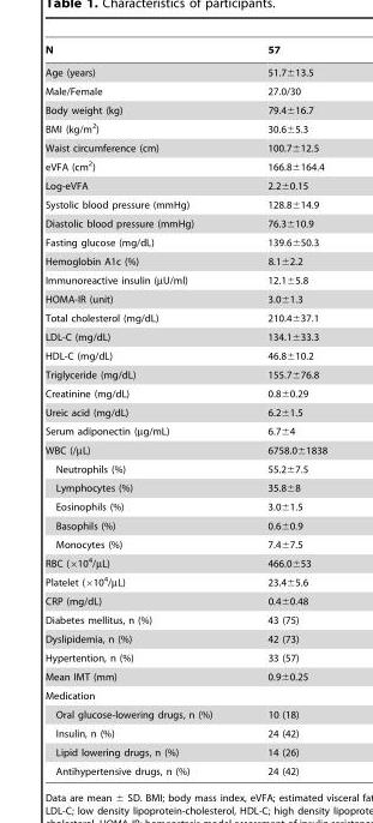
<table><thead><tr><td>N</td><td>57</td></tr></thead><tbody><tr><td>Age (years)</td><td>51.7±13.5</td></tr><tr><td>Male/Female</td><td>27.0/30</td></tr><tr><td>Body weight (kg)</td><td>79.4±16.7</td></tr><tr><td>BMI (kg/m<sup>2</sup>)</td><td>30.6±5.3</td></tr><tr><td>Waist circumference (cm)</td><td>100.7±12.5</td></tr><tr><td>eVFA (cm<sup>2</sup>)</td><td>166.8±164.4</td></tr><tr><td>Log-eVFA</td><td>2.2±0.15</td></tr><tr><td>Systolic blood pressure (mmHg)</td><td>128.8±14.9</td></tr><tr><td>Diastolic blood pressure (mmHg)</td><td>76.3±10.9</td></tr><tr><td>Fasting glucose (mg/dL)</td><td>139.6±50.3</td></tr><tr><td>Hemoglobin A1c (%)</td><td>8.1±2.2</td></tr><tr><td>Immunoreactive insulin (µU/ml)</td><td>12.1±5.8</td></tr><tr><td>HOMA-IR (unit)</td><td>3.0±1.3</td></tr><tr><td>Total cholesterol (mg/dL)</td><td>210.4±37.1</td></tr><tr><td>LDL-C (mg/dL)</td><td>134.1±33.3</td></tr><tr><td>HDL-C (mg/dL)</td><td>46.8±10.2</td></tr><tr><td>Triglyceride (mg/dL)</td><td>155.7±76.8</td></tr><tr><td>Creatinine (mg/dL)</td><td>0.8±0.29</td></tr><tr><td>Ureic acid (mg/dL)</td><td>6.2±1.5</td></tr><tr><td>Serum adiponectin (µg/mL)</td><td>6.7±4</td></tr><tr><td>WBC (/µL)</td><td>6758.0±1838</td></tr><tr><td>Neutrophils (%)</td><td>55.2±7.5</td></tr><tr><td>Lymphocytes (%)</td><td>35.8±8</td></tr><tr><td>Eosinophils (%)</td><td>3.0±1.5</td></tr><tr><td>Basophils (%)</td><td>0.6±0.9</td></tr><tr><td>Monocytes (%)</td><td>7.4±7.5</td></tr><tr><td>RBC (×10<sup>4</sup>/µL)</td><td>466.0±53</td></tr><tr><td>Platelet (×10<sup>4</sup>/µL)</td><td>23.4±5.6</td></tr><tr><td>CRP (mg/dL)</td><td>0.4±0.48</td></tr><tr><td>Diabetes mellitus, n (%)</td><td>43 (75)</td></tr><tr><td>Dyslipidemia, n (%)</td><td>42 (73)</td></tr><tr><td>Hypertention, n (%)</td><td>33 (57)</td></tr><tr><td>Mean IMT (mm)</td><td>0.9±0.25</td></tr><tr><td colspan="2">Medication</td></tr><tr><td>Oral glucose-lowering drugs, n (%)</td><td>10 (18)</td></tr><tr><td>Insulin, n (%)</td><td>24 (42)</td></tr><tr><td>Lipid lowering drugs, n (%)</td><td>14 (26)</td></tr><tr><td>Antihypertensive drugs, n (%)</td><td>24 (42)</td></tr></tbody></table>